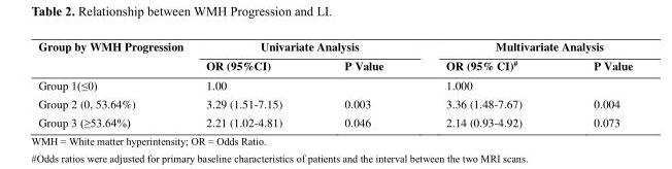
<table><thead><tr><td rowspan="2">Group by WMH Progression</td><td colspan="2">Univariate Analysis</td><td colspan="2">Multivariate Analysis</td></tr><tr><td>OR (95%CI)</td><td>P Value</td><td>OR (95% CI)<sup>#</sup></td><td>P Value</td></tr></thead><tbody><tr><td>Group 1(≤0)</td><td>1.00</td><td></td><td>1.000</td><td></td></tr><tr><td>Group 2 (0, 53.64%)</td><td>3.29 (1.51-7.15)</td><td>0.003</td><td>3.36 (1.48-7.67)</td><td>0.004</td></tr><tr><td>Group 3 (≥53.64%)</td><td>2.21 (1.02-4.81)</td><td>0.046</td><td>2.14 (0.93-4.92)</td><td>0.073</td></tr></tbody></table>